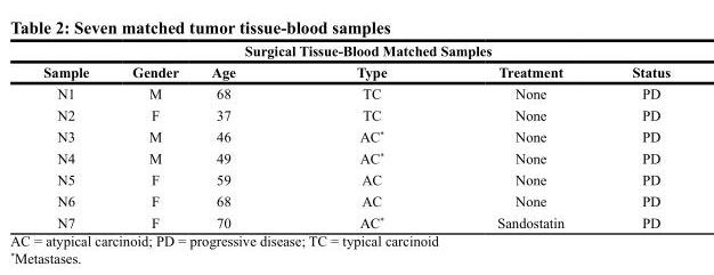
<table><thead><tr><td colspan="6">Surgical Tissue-Blood Matched Samples</td></tr><tr><td>Sample</td><td>Gender</td><td>Age</td><td>Type</td><td>Treatment</td><td>Status</td></tr></thead><tbody><tr><td>N1</td><td>M</td><td>68</td><td>TC</td><td>None</td><td>PD</td></tr><tr><td>N2</td><td>F</td><td>37</td><td>TC</td><td>None</td><td>PD</td></tr><tr><td>N3</td><td>M</td><td>46</td><td>AC*</td><td>None</td><td>PD</td></tr><tr><td>N4</td><td>M</td><td>49</td><td>AC*</td><td>None</td><td>PD</td></tr><tr><td>N5</td><td>F</td><td>59</td><td>AC</td><td>None</td><td>PD</td></tr><tr><td>N6</td><td>F</td><td>68</td><td>AC</td><td>None</td><td>PD</td></tr><tr><td>N7</td><td>F</td><td>70</td><td>AC*</td><td>Sandostatin</td><td>PD</td></tr></tbody></table>